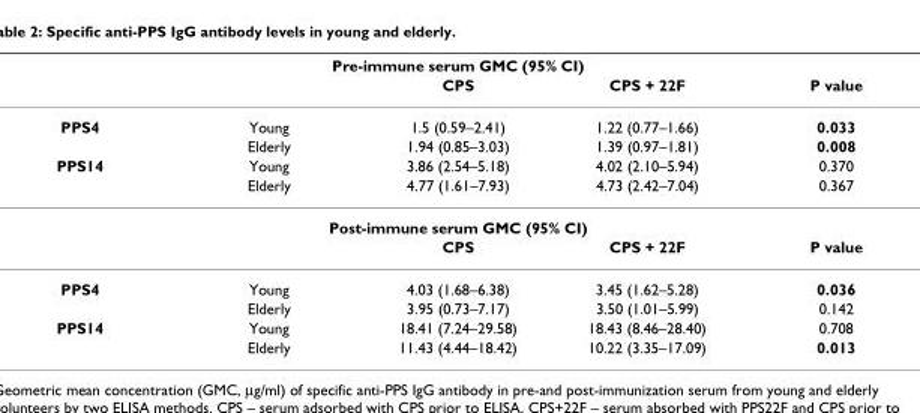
<table><thead><tr><td colspan="5">Pre-immune serum GMC (95% CI)</td></tr><tr><td></td><td></td><td>CPS</td><td>CPS + 22F</td><td>P value</td></tr></thead><tbody><tr><td rowspan="2">PPS4</td><td>Young</td><td>1.5 (0.59–2.41)</td><td>1.22 (0.77–1.66)</td><td>0.033</td></tr><tr><td>Elderly</td><td>1.94 (0.85–3.03)</td><td>1.39 (0.97–1.81)</td><td>0.008</td></tr><tr><td rowspan="2">PPS14</td><td>Young</td><td>3.86 (2.54–5.18)</td><td>4.02 (2.10–5.94)</td><td>0.370</td></tr><tr><td>Elderly</td><td>4.77 (1.61–7.93)</td><td>4.73 (2.42–7.04)</td><td>0.367</td></tr><tr><td colspan="5">Post-immune serum GMC (95% CI)</td></tr><tr><td></td><td></td><td>CPS</td><td>CPS + 22F</td><td>P value</td></tr><tr><td rowspan="2">PPS4</td><td>Young</td><td>4.03 (1.68–6.38)</td><td>3.45 (1.62–5.28)</td><td>0.036</td></tr><tr><td>Elderly</td><td>3.95 (0.73–7.17)</td><td>3.50 (1.01–5.99)</td><td>0.142</td></tr><tr><td rowspan="2">PPS14</td><td>Young</td><td>18.41 (7.24–29.58)</td><td>18.43 (8.46–28.40)</td><td>0.708</td></tr><tr><td>Elderly</td><td>11.43 (4.44–18.42)</td><td>10.22 (3.35–17.09)</td><td>0.013</td></tr></tbody></table>